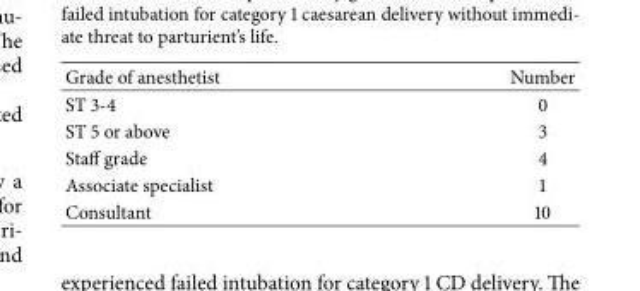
<table><thead><tr><td>Grade of anesthetist</td><td>Number</td></tr></thead><tbody><tr><td>ST 3-4</td><td>0</td></tr><tr><td>ST 5 or above</td><td>3</td></tr><tr><td>Staff grade</td><td>4</td></tr><tr><td>Associate specialist</td><td>1</td></tr><tr><td>Consultant</td><td>10</td></tr></tbody></table>